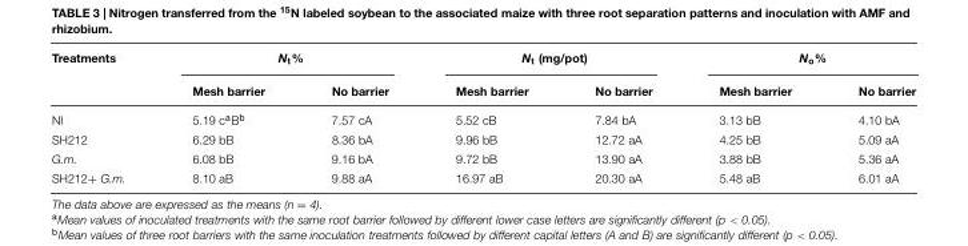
<table><thead><tr><td rowspan="2">Treatments</td><td colspan="2">N<sub>t</sub>%</td><td colspan="2">N<sub>t</sub> (mg/pot)</td><td colspan="2">N<sub>o</sub>%</td></tr><tr><td>Mesh barrier</td><td>No barrier</td><td>Mesh barrier</td><td>No barrier</td><td>Mesh barrier</td><td>No barrier</td></tr></thead><tbody><tr><td>NI</td><td>5.19 c<sup>a</sup>B<sup>b</sup></td><td>7.57 cA</td><td>5.52 cB</td><td>7.84 bA</td><td>3.13 bB</td><td>4.10 bA</td></tr><tr><td>SH212</td><td>6.29 bB</td><td>8.36 bA</td><td>9.96 bB</td><td>12.72 aA</td><td>4.25 bB</td><td>5.09 aA</td></tr><tr><td>G.m.</td><td>6.08 bB</td><td>9.16 bA</td><td>9.72 bB</td><td>13.90 aA</td><td>3.88 bB</td><td>5.36 aA</td></tr><tr><td>SH212+ G.m.</td><td>8.10 aB</td><td>9.88 aA</td><td>16.97 aB</td><td>20.30 aA</td><td>5.48 aB</td><td>6.01 aA</td></tr></tbody></table>